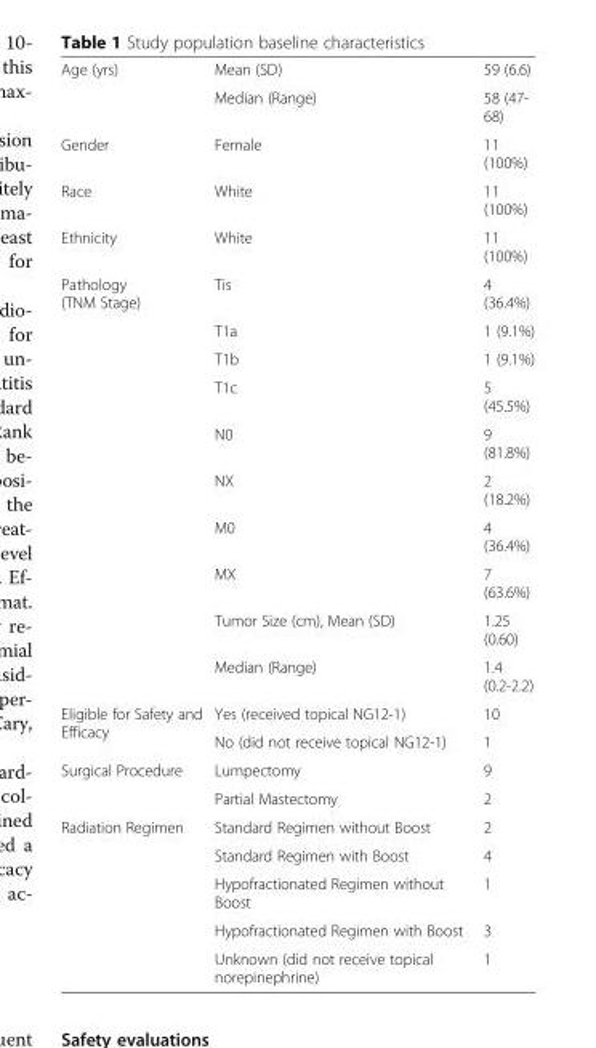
<table><tbody><tr><td rowspan="2">Age (yrs)</td><td>Mean (SD)</td><td>59 (6.6)</td></tr><tr><td>Median (Range)</td><td>58 (47- 68)</td></tr><tr><td>Gender</td><td>Female</td><td>11 (100%)</td></tr><tr><td>Race</td><td>White</td><td>11 (100%)</td></tr><tr><td>Ethnicity</td><td>White</td><td>11 (100%)</td></tr><tr><td rowspan="10">Pathology (TNM Stage)</td><td>Tis</td><td>4 (36.4%)</td></tr><tr><td>T1a</td><td>1 (9.1%)</td></tr><tr><td>T1b</td><td>1 (9.1%)</td></tr><tr><td>T1c</td><td>5 (45.5%)</td></tr><tr><td>N0</td><td>9 (81.8%)</td></tr><tr><td>NX</td><td>2 (18.2%)</td></tr><tr><td>M0</td><td>4 (36.4%)</td></tr><tr><td>MX</td><td>7 (63.6%)</td></tr><tr><td>Tumor Size (cm), Mean (SD)</td><td>1.25 (0.60)</td></tr><tr><td>Median (Range)</td><td>1.4 (0.2-2.2)</td></tr><tr><td rowspan="2">Eligible for Safety and Efficacy</td><td>Yes (received topical NG12-1)</td><td>10</td></tr><tr><td>No (did not receive topical NG12-1)</td><td>1</td></tr><tr><td rowspan="2">Surgical Procedure</td><td>Lumpectomy</td><td>9</td></tr><tr><td>Partial Mastectomy</td><td>2</td></tr><tr><td rowspan="5">Radiation Regimen</td><td>Standard Regimen without Boost</td><td>2</td></tr><tr><td>Standard Regimen with Boost</td><td>4</td></tr><tr><td>Hypofractionated Regimen without Boost</td><td>1</td></tr><tr><td>Hypofractionated Regimen with Boost</td><td>3</td></tr><tr><td>Unknown (did not receive topical norepinephrine)</td><td>1</td></tr></tbody></table>